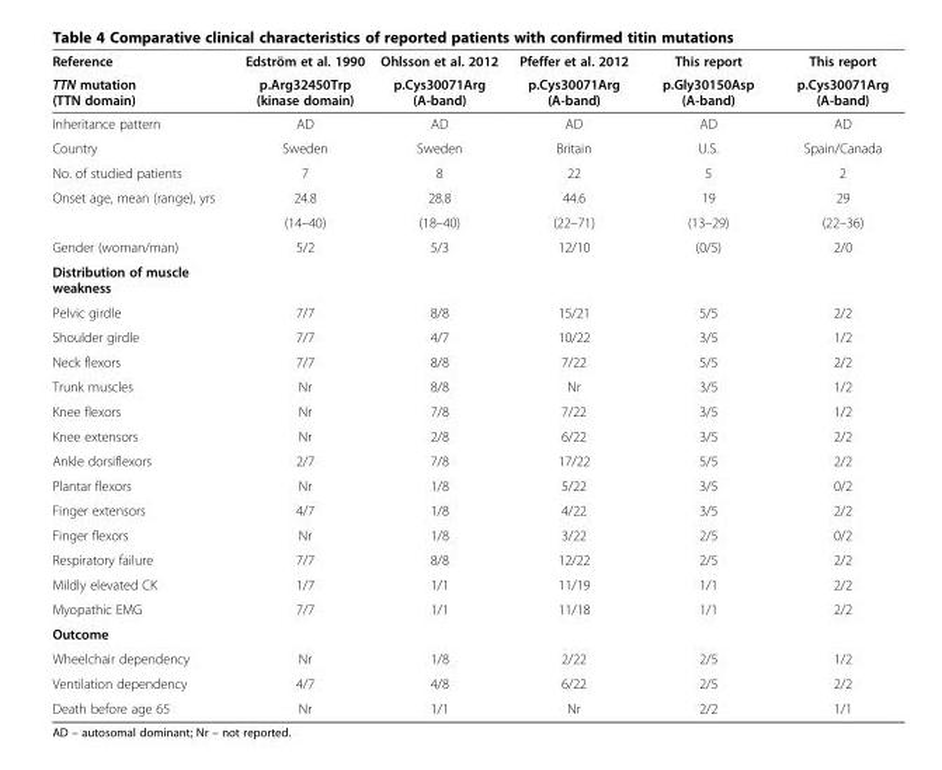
<table><thead><tr><td rowspan="2">Reference TTN mutation (TTN domain)</td><td rowspan="2">Edström et al. 1990 p.Arg32450Trp (kinase domain)</td><td rowspan="2">Ohlsson et al. 2012 p.Cys30071Arg (A-band)</td><td rowspan="2">Pfeffer et al. 2012 p.Cys30071Arg (A-band)</td><td rowspan="2">This report p.Gly30150Asp (A-band)</td><td rowspan="2">This report p.Cys30071Arg (A-band)</td></tr><tr></tr></thead><tbody><tr><td>Inheritance pattern</td><td>AD</td><td>AD</td><td>AD</td><td>AD</td><td>AD</td></tr><tr><td>Country</td><td>Sweden</td><td>Sweden</td><td>Britain</td><td>U.S.</td><td>Spain/Canada</td></tr><tr><td>No. of studied patients</td><td>7</td><td>8</td><td>22</td><td>5</td><td>2</td></tr><tr><td rowspan="2">Onset age, mean (range), yrs</td><td>24.8</td><td>28.8</td><td>44.6</td><td>19</td><td>29</td></tr><tr><td>(14–40)</td><td>(18–40)</td><td>(22–71)</td><td>(13–29)</td><td>(22–36)</td></tr><tr><td>Gender (woman/man)</td><td>5/2</td><td>5/3</td><td>12/10</td><td>(0/5)</td><td>2/0</td></tr><tr><td colspan="6">Distribution of muscle weakness</td></tr><tr><td>Pelvic girdle</td><td>7/7</td><td>8/8</td><td>15/21</td><td>5/5</td><td>2/2</td></tr><tr><td>Shoulder girdle</td><td>7/7</td><td>4/7</td><td>10/22</td><td>3/5</td><td>1/2</td></tr><tr><td>Neck flexors</td><td>7/7</td><td>8/8</td><td>7/22</td><td>5/5</td><td>2/2</td></tr><tr><td>Trunk muscles</td><td>Nr</td><td>8/8</td><td>Nr</td><td>3/5</td><td>1/2</td></tr><tr><td>Knee flexors</td><td>Nr</td><td>7/8</td><td>7/22</td><td>3/5</td><td>1/2</td></tr><tr><td>Knee extensors</td><td>Nr</td><td>2/8</td><td>6/22</td><td>3/5</td><td>2/2</td></tr><tr><td>Ankle dorsiflexors</td><td>2/7</td><td>7/8</td><td>17/22</td><td>5/5</td><td>2/2</td></tr><tr><td>Plantar flexors</td><td>Nr</td><td>1/8</td><td>5/22</td><td>3/5</td><td>0/2</td></tr><tr><td>Finger extensors</td><td>4/7</td><td>1/8</td><td>4/22</td><td>3/5</td><td>2/2</td></tr><tr><td>Finger flexors</td><td>Nr</td><td>1/8</td><td>3/22</td><td>2/5</td><td>0/2</td></tr><tr><td>Respiratory failure</td><td>7/7</td><td>8/8</td><td>12/22</td><td>2/5</td><td>2/2</td></tr><tr><td>Mildly elevated CK</td><td>1/7</td><td>1/1</td><td>11/19</td><td>1/1</td><td>2/2</td></tr><tr><td>Myopathic EMG</td><td>7/7</td><td>1/1</td><td>11/18</td><td>1/1</td><td>2/2</td></tr><tr><td colspan="6">Outcome</td></tr><tr><td>Wheelchair dependency</td><td>Nr</td><td>1/8</td><td>2/22</td><td>2/5</td><td>1/2</td></tr><tr><td>Ventilation dependency</td><td>4/7</td><td>4/8</td><td>6/22</td><td>2/5</td><td>2/2</td></tr><tr><td>Death before age 65</td><td>Nr</td><td>1/1</td><td>Nr</td><td>2/2</td><td>1/1</td></tr></tbody></table>